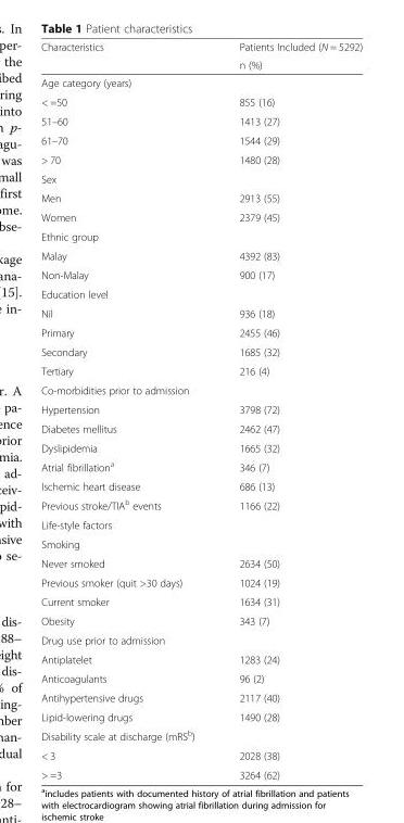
<table><thead><tr><td rowspan="2">Characteristics</td><td rowspan="2">Patients Included (N = 5292) n (%)</td></tr><tr></tr></thead><tbody><tr><td colspan="2">Age category (years)</td></tr><tr><td>&lt; =50</td><td>855 (16)</td></tr><tr><td>51–60</td><td>1413 (27)</td></tr><tr><td>61–70</td><td>1544 (29)</td></tr><tr><td>&gt; 70</td><td>1480 (28)</td></tr><tr><td colspan="2">Sex</td></tr><tr><td>Men</td><td>2913 (55)</td></tr><tr><td>Women</td><td>2379 (45)</td></tr><tr><td colspan="2">Ethnic group</td></tr><tr><td>Malay</td><td>4392 (83)</td></tr><tr><td>Non-Malay</td><td>900 (17)</td></tr><tr><td colspan="2">Education level</td></tr><tr><td>Nil</td><td>936 (18)</td></tr><tr><td>Primary</td><td>2455 (46)</td></tr><tr><td>Secondary</td><td>1685 (32)</td></tr><tr><td>Tertiary</td><td>216 (4)</td></tr><tr><td colspan="2">Co-morbidities prior to admission</td></tr><tr><td>Hypertension</td><td>3798 (72)</td></tr><tr><td>Diabetes mellitus</td><td>2462 (47)</td></tr><tr><td>Dyslipidemia</td><td>1665 (32)</td></tr><tr><td>Atrial fibrillation<sup>a</sup></td><td>346 (7)</td></tr><tr><td>Ischemic heart disease</td><td>686 (13)</td></tr><tr><td>Previous stroke/TIA<sup>b</sup> events</td><td>1166 (22)</td></tr><tr><td colspan="2">Life-style factors</td></tr><tr><td colspan="2">Smoking</td></tr><tr><td>Never smoked</td><td>2634 (50)</td></tr><tr><td>Previous smoker (quit &gt;30 days)</td><td>1024 (19)</td></tr><tr><td>Current smoker</td><td>1634 (31)</td></tr><tr><td>Obesity</td><td>343 (7)</td></tr><tr><td colspan="2">Drug use prior to admission</td></tr><tr><td>Antiplatelet</td><td>1283 (24)</td></tr><tr><td>Anticoagulants</td><td>96 (2)</td></tr><tr><td>Antihypertensive drugs</td><td>2117 (40)</td></tr><tr><td>Lipid-lowering drugs</td><td>1490 (28)</td></tr><tr><td colspan="2">Disability scale at discharge (mRS<sup>b</sup>)</td></tr><tr><td>&lt; 3</td><td>2028 (38)</td></tr><tr><td>&gt; =3</td><td>3264 (62)</td></tr></tbody></table>